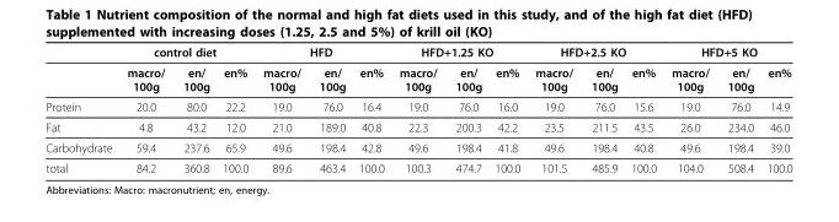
<table><thead><tr><td rowspan="2"></td><td colspan="3">control diet</td><td colspan="3">HFD</td><td colspan="3">HFD+1.25 KO</td><td colspan="3">HFD+2.5 KO</td><td colspan="3">HFD+5 KO</td></tr><tr><td>macro/ 100g</td><td>en/ 100g</td><td>en%</td><td>macro/ 100g</td><td>en/ 100g</td><td>en%</td><td>macro/ 100g</td><td>en/ 100g</td><td>en%</td><td>macro/ 100g</td><td>en/ 100g</td><td>en%</td><td>macro/ 100g</td><td>en/ 100g</td><td>en%</td></tr></thead><tbody><tr><td>Protein</td><td>20.0</td><td>80.0</td><td>22.2</td><td>19.0</td><td>76.0</td><td>16.4</td><td>19.0</td><td>76.0</td><td>16.0</td><td>19.0</td><td>76.0</td><td>15.6</td><td>19.0</td><td>76.0</td><td>14.9</td></tr><tr><td>Fat</td><td>4.8</td><td>43.2</td><td>12.0</td><td>21.0</td><td>189.0</td><td>40.8</td><td>22.3</td><td>200.3</td><td>42.2</td><td>23.5</td><td>211.5</td><td>43.5</td><td>26.0</td><td>234.0</td><td>46.0</td></tr><tr><td>Carbohydrate</td><td>59.4</td><td>237.6</td><td>65.9</td><td>49.6</td><td>198.4</td><td>42.8</td><td>49.6</td><td>198.4</td><td>41.8</td><td>49.6</td><td>198.4</td><td>40.8</td><td>49.6</td><td>198.4</td><td>39.0</td></tr><tr><td>total</td><td>84.2</td><td>360.8</td><td>100.0</td><td>89.6</td><td>463.4</td><td>100.0</td><td>100.3</td><td>474.7</td><td>100.0</td><td>101.5</td><td>485.9</td><td>100.0</td><td>104.0</td><td>508.4</td><td>100.0</td></tr></tbody></table>